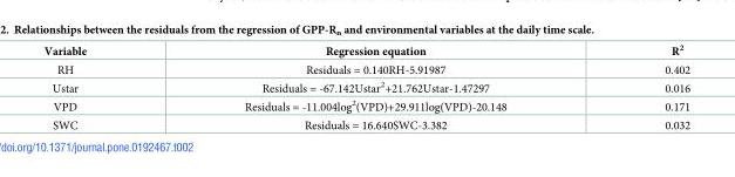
<table><thead><tr><td>Variable</td><td>Regression equation</td><td>R<sup>2</sup></td></tr></thead><tbody><tr><td>RH</td><td>Residuals = 0.140RH-5.91987</td><td>0.402</td></tr><tr><td>Ustar</td><td>Residuals = -67.142Ustar<sup>2</sup>+21.762Ustar-1.47297</td><td>0.016</td></tr><tr><td>VPD</td><td>Residuals = -11.004log<sup>2</sup>(VPD)+29.911log(VPD)-20.148</td><td>0.171</td></tr><tr><td>SWC</td><td>Residuals = 16.640SWC-3.382</td><td>0.032</td></tr></tbody></table>